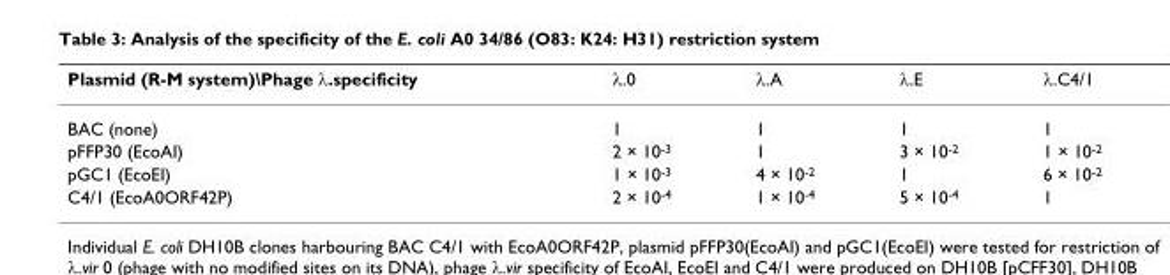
<table><thead><tr><td>Plasmid (R-M system)\Phage λ.specificity</td><td>λ.0</td><td>λ.A</td><td>λ.E</td><td>λ.C4/1</td></tr></thead><tbody><tr><td>BAC (none)</td><td>1</td><td>1</td><td>1</td><td>1</td></tr><tr><td>pFFP30 (EcoAI)</td><td>2 × 10<sup>-3</sup></td><td>1</td><td>3 × 10<sup>-2</sup></td><td>1 × 10<sup>-2</sup></td></tr><tr><td>pGC1 (EcoEI)</td><td>1 × 10<sup>-3</sup></td><td>4 × 10<sup>-2</sup></td><td>1</td><td>6 × 10<sup>-2</sup></td></tr><tr><td>C4/1 (EcoA0ORF42P)</td><td>2 × 10<sup>-4</sup></td><td>1 × 10<sup>-4</sup></td><td>5 × 10<sup>-4</sup></td><td>1</td></tr></tbody></table>